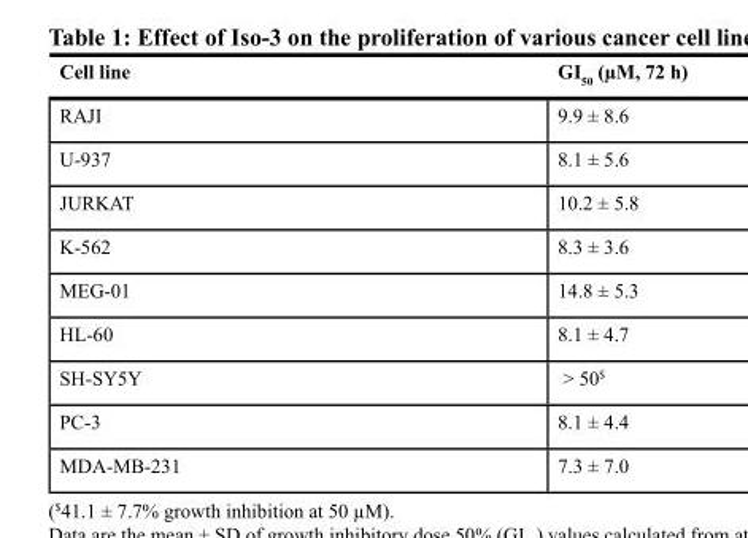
<table><thead><tr><td>Cell line</td><td>GI<sub>50</sub> (µM, 72 h)</td></tr></thead><tbody><tr><td>RAJI</td><td>9.9 ± 8.6</td></tr><tr><td>U-937</td><td>8.1 ± 5.6</td></tr><tr><td>JURKAT</td><td>10.2 ± 5.8</td></tr><tr><td>K-562</td><td>8.3 ± 3.6</td></tr><tr><td>MEG-01</td><td>14.8 ± 5.3</td></tr><tr><td>HL-60</td><td>8.1 ± 4.7</td></tr><tr><td>SH-SY5Y</td><td>&gt; 50<sup>$</sup></td></tr><tr><td>PC-3</td><td>8.1 ± 4.4</td></tr><tr><td>MDA-MB-231</td><td>7.3 ± 7.0</td></tr></tbody></table>